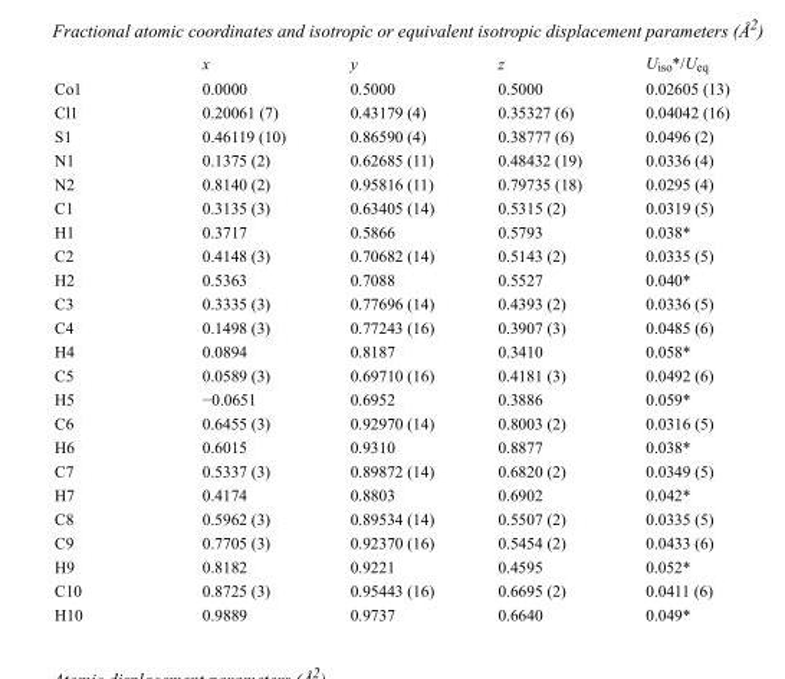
<table><thead><tr><td></td><td>x</td><td>y</td><td>z</td><td>U<sub>iso</sub>*/U<sub>eq</sub></td></tr></thead><tbody><tr><td>Co1</td><td>0.0000</td><td>0.5000</td><td>0.5000</td><td>0.02605 (13)</td></tr><tr><td>Cl1</td><td>0.20061 (7)</td><td>0.43179 (4)</td><td>0.35327 (6)</td><td>0.04042 (16)</td></tr><tr><td>S1</td><td>0.46119 (10)</td><td>0.86590 (4)</td><td>0.38777 (6)</td><td>0.0496 (2)</td></tr><tr><td>N1</td><td>0.1375 (2)</td><td>0.62685 (11)</td><td>0.48432 (19)</td><td>0.0336 (4)</td></tr><tr><td>N2</td><td>0.8140 (2)</td><td>0.95816 (11)</td><td>0.79735 (18)</td><td>0.0295 (4)</td></tr><tr><td>C1</td><td>0.3135 (3)</td><td>0.63405 (14)</td><td>0.5315 (2)</td><td>0.0319 (5)</td></tr><tr><td>H1</td><td>0.3717</td><td>0.5866</td><td>0.5793</td><td>0.038*</td></tr><tr><td>C2</td><td>0.4148 (3)</td><td>0.70682 (14)</td><td>0.5143 (2)</td><td>0.0335 (5)</td></tr><tr><td>H2</td><td>0.5363</td><td>0.7088</td><td>0.5527</td><td>0.040*</td></tr><tr><td>C3</td><td>0.3335 (3)</td><td>0.77696 (14)</td><td>0.4393 (2)</td><td>0.0336 (5)</td></tr><tr><td>C4</td><td>0.1498 (3)</td><td>0.77243 (16)</td><td>0.3907 (3)</td><td>0.0485 (6)</td></tr><tr><td>H4</td><td>0.0894</td><td>0.8187</td><td>0.3410</td><td>0.058*</td></tr><tr><td>C5</td><td>0.0589 (3)</td><td>0.69710 (16)</td><td>0.4181 (3)</td><td>0.0492 (6)</td></tr><tr><td>H5</td><td>−0.0651</td><td>0.6952</td><td>0.3886</td><td>0.059*</td></tr><tr><td>C6</td><td>0.6455 (3)</td><td>0.92970 (14)</td><td>0.8003 (2)</td><td>0.0316 (5)</td></tr><tr><td>H6</td><td>0.6015</td><td>0.9310</td><td>0.8877</td><td>0.038*</td></tr><tr><td>C7</td><td>0.5337 (3)</td><td>0.89872 (14)</td><td>0.6820 (2)</td><td>0.0349 (5)</td></tr><tr><td>H7</td><td>0.4174</td><td>0.8803</td><td>0.6902</td><td>0.042*</td></tr><tr><td>C8</td><td>0.5962 (3)</td><td>0.89534 (14)</td><td>0.5507 (2)</td><td>0.0335 (5)</td></tr><tr><td>C9</td><td>0.7705 (3)</td><td>0.92370 (16)</td><td>0.5454 (2)</td><td>0.0433 (6)</td></tr><tr><td>H9</td><td>0.8182</td><td>0.9221</td><td>0.4595</td><td>0.052*</td></tr><tr><td>C10</td><td>0.8725 (3)</td><td>0.95443 (16)</td><td>0.6695 (2)</td><td>0.0411 (6)</td></tr><tr><td>H10</td><td>0.9889</td><td>0.9737</td><td>0.6640</td><td>0.049*</td></tr></tbody></table>